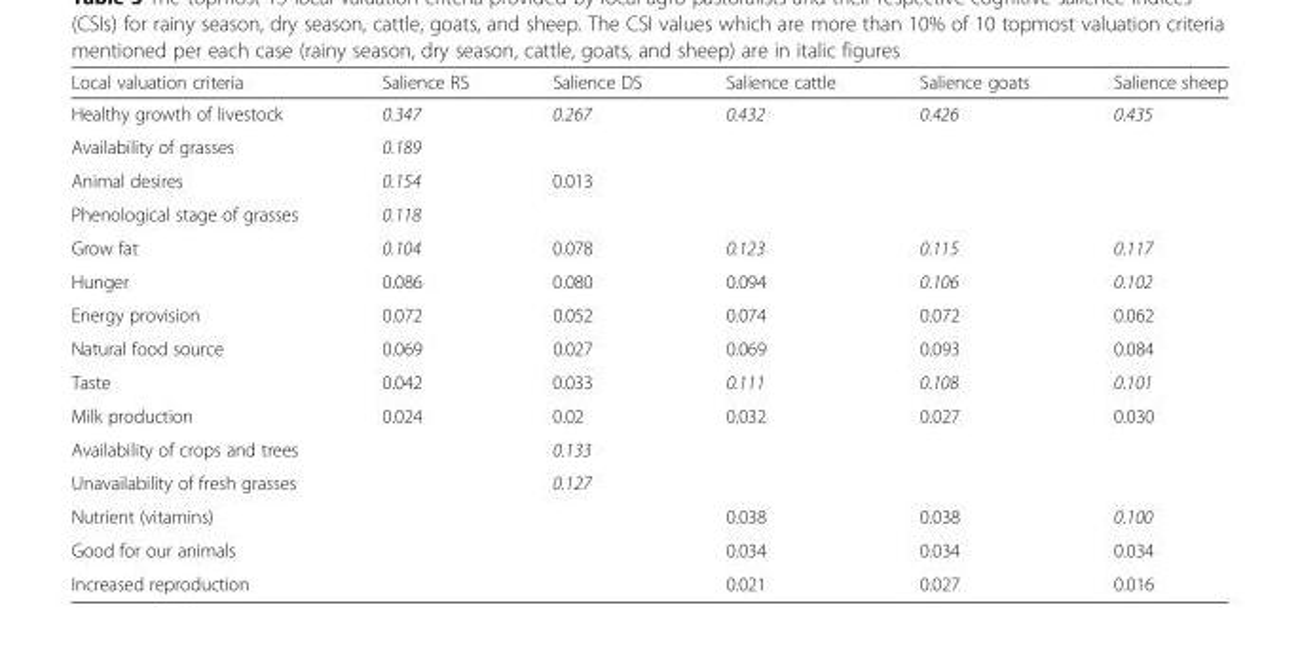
<table><thead><tr><td>Local valuation criteria</td><td>Salience RS</td><td>Salience DS</td><td>Salience cattle</td><td>Salience goats</td><td>Salience sheep</td></tr></thead><tbody><tr><td>Healthy growth of livestock</td><td>0.347</td><td>0.267</td><td>0.432</td><td>0.426</td><td>0.435</td></tr><tr><td>Availability of grasses</td><td>0.189</td><td></td><td></td><td></td><td></td></tr><tr><td>Animal desires</td><td>0.154</td><td>0.013</td><td></td><td></td><td></td></tr><tr><td>Phenological stage of grasses</td><td>0.118</td><td></td><td></td><td></td><td></td></tr><tr><td>Grow fat</td><td>0.104</td><td>0.078</td><td>0.123</td><td>0.115</td><td>0.117</td></tr><tr><td>Hunger</td><td>0.086</td><td>0.080</td><td>0.094</td><td>0.106</td><td>0.102</td></tr><tr><td>Energy provision</td><td>0.072</td><td>0.052</td><td>0.074</td><td>0.072</td><td>0.062</td></tr><tr><td>Natural food source</td><td>0.069</td><td>0.027</td><td>0.069</td><td>0.093</td><td>0.084</td></tr><tr><td>Taste</td><td>0.042</td><td>0.033</td><td>0.111</td><td>0.108</td><td>0.101</td></tr><tr><td>Milk production</td><td>0.024</td><td>0.02</td><td>0.032</td><td>0.027</td><td>0.030</td></tr><tr><td>Availability of crops and trees</td><td></td><td>0.133</td><td></td><td></td><td></td></tr><tr><td>Unavailability of fresh grasses</td><td></td><td>0.127</td><td></td><td></td><td></td></tr><tr><td>Nutrient (vitamins)</td><td></td><td></td><td>0.038</td><td>0.038</td><td>0.100</td></tr><tr><td>Good for our animals</td><td></td><td></td><td>0.034</td><td>0.034</td><td>0.034</td></tr><tr><td>Increased reproduction</td><td></td><td></td><td>0.021</td><td>0.027</td><td>0.016</td></tr></tbody></table>